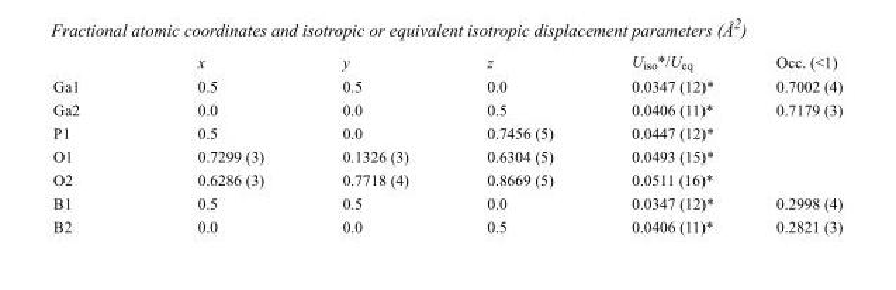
<table><thead><tr><td></td><td>x</td><td>y</td><td>z</td><td>U<sub>iso</sub>*/U<sub>eq</sub></td><td>Occ. (&lt;1)</td></tr></thead><tbody><tr><td>Ga1</td><td>0.5</td><td>0.5</td><td>0.0</td><td>0.0347 (12)*</td><td>0.7002 (4)</td></tr><tr><td>Ga2</td><td>0.0</td><td>0.0</td><td>0.5</td><td>0.0406 (11)*</td><td>0.7179 (3)</td></tr><tr><td>P1</td><td>0.5</td><td>0.0</td><td>0.7456 (5)</td><td>0.0447 (12)*</td><td></td></tr><tr><td>O1</td><td>0.7299 (3)</td><td>0.1326 (3)</td><td>0.6304 (5)</td><td>0.0493 (15)*</td><td></td></tr><tr><td>O2</td><td>0.6286 (3)</td><td>0.7718 (4)</td><td>0.8669 (5)</td><td>0.0511 (16)*</td><td></td></tr><tr><td>B1</td><td>0.5</td><td>0.5</td><td>0.0</td><td>0.0347 (12)*</td><td>0.2998 (4)</td></tr><tr><td>B2</td><td>0.0</td><td>0.0</td><td>0.5</td><td>0.0406 (11)*</td><td>0.2821 (3)</td></tr></tbody></table>